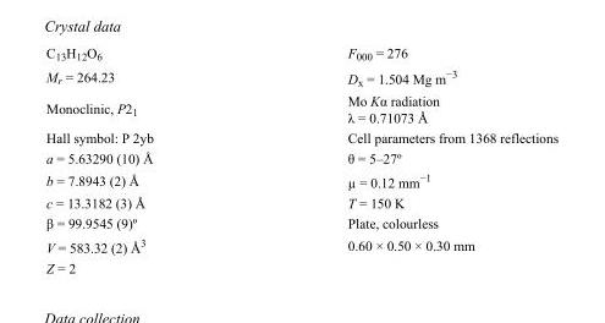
<table><tbody><tr><td>C<sub>13</sub>H<sub>12</sub>O<sub>6</sub></td><td>F000 = 276</td></tr><tr><td>M<sub>r</sub> = 264.23</td><td>D<sub>x</sub> = 1.504 Mg m<sup>−3</sup></td></tr><tr><td>Monoclinic, P2<sub>1</sub></td><td>Mo Kα radiation λ = 0.71073 Å</td></tr><tr><td>Hall symbol: P 2yb</td><td>Cell parameters from 1368 reflections</td></tr><tr><td>a = 5.63290 (10) Å</td><td>θ = 5–27º</td></tr><tr><td>b = 7.8943 (2) Å</td><td>µ = 0.12 mm<sup>−1</sup></td></tr><tr><td>c = 13.3182 (3) Å</td><td>T = 150 K</td></tr><tr><td>β = 99.9545 (9)º</td><td>Plate, colourless</td></tr><tr><td>V = 583.32 (2) Å<sup>3</sup></td><td>0.60 × 0.50 × 0.30 mm</td></tr><tr><td>Z = 2</td><td></td></tr></tbody></table>